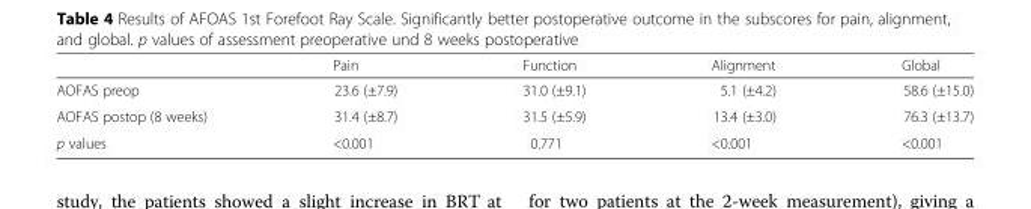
<table><thead><tr><td></td><td>Pain</td><td>Function</td><td>Alignment</td><td>Global</td></tr></thead><tbody><tr><td>AOFAS preop</td><td>23.6 (±7.9)</td><td>31.0 (±9.1)</td><td>5.1 (±4.2)</td><td>58.6 (±15.0)</td></tr><tr><td>AOFAS postop (8 weeks)</td><td>31.4 (±8.7)</td><td>31.5 (±5.9)</td><td>13.4 (±3.0)</td><td>76.3 (±13.7)</td></tr><tr><td>p values</td><td>&lt;0.001</td><td>0.771</td><td>&lt;0.001</td><td>&lt;0.001</td></tr></tbody></table>